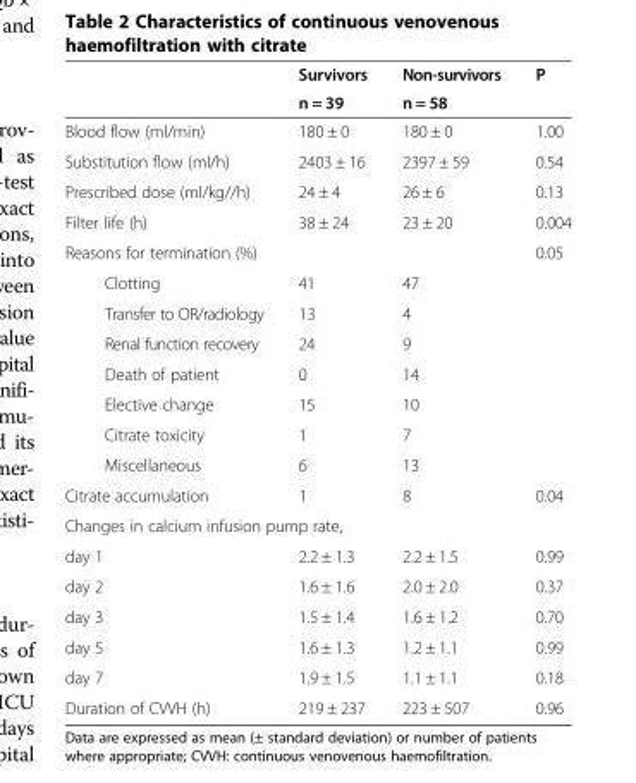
<table><thead><tr><td rowspan="2"></td><td rowspan="2">Survivors n = 39</td><td rowspan="2">Non-survivors n = 58</td><td rowspan="2">P</td></tr><tr></tr></thead><tbody><tr><td>Blood flow (ml/min)</td><td>180 ± 0</td><td>180 ± 0</td><td>1.00</td></tr><tr><td>Substitution flow (ml/h)</td><td>2403 ± 16</td><td>2397 ± 59</td><td>0.54</td></tr><tr><td>Prescribed dose (ml/kg//h)</td><td>24 ± 4</td><td>26 ± 6</td><td>0.13</td></tr><tr><td>Filter life (h)</td><td>38 ± 24</td><td>23 ± 20</td><td>0.004</td></tr><tr><td colspan="3">Reasons for termination (%)</td><td rowspan="8">0.05</td></tr><tr><td>Clotting</td><td>41</td><td>47</td></tr><tr><td>Transfer to OR/radiology</td><td>13</td><td>4</td></tr><tr><td>Renal function recovery</td><td>24</td><td>9</td></tr><tr><td>Death of patient</td><td>0</td><td>14</td></tr><tr><td>Elective change</td><td>15</td><td>10</td></tr><tr><td>Citrate toxicity</td><td>1</td><td>7</td></tr><tr><td>Miscellaneous</td><td>6</td><td>13</td></tr><tr><td>Citrate accumulation</td><td>1</td><td>8</td><td>0.04</td></tr><tr><td colspan="4">Changes in calcium infusion pump rate,</td></tr><tr><td>day 1</td><td>2.2 ± 1.3</td><td>2.2 ± 1.5</td><td>0.99</td></tr><tr><td>day 2</td><td>1.6 ± 1.6</td><td>2.0 ± 2.0</td><td>0.37</td></tr><tr><td>day 3</td><td>1.5 ± 1.4</td><td>1.6 ± 1.2</td><td>0.70</td></tr><tr><td>day 5</td><td>1.6 ± 1.3</td><td>1.2 ± 1.1</td><td>0.99</td></tr><tr><td>day 7</td><td>1.9 ± 1.5</td><td>1.1 ± 1.1</td><td>0.18</td></tr><tr><td>Duration of CVVH (h)</td><td>219 ± 237</td><td>223 ± 507</td><td>0.96</td></tr></tbody></table>